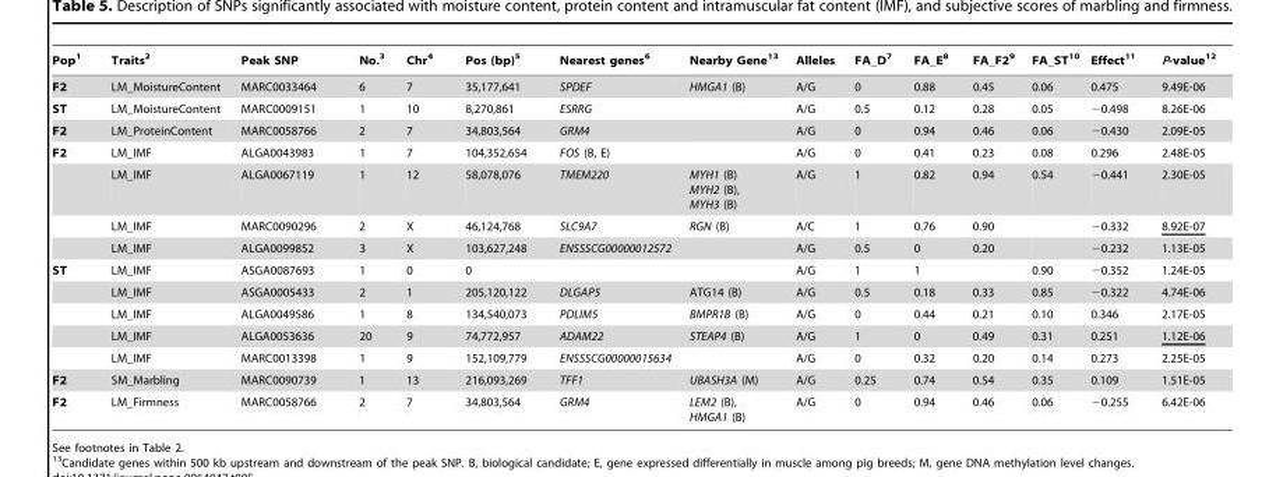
<table><thead><tr><td>Pop<sup>1</sup></td><td>Traits<sup>2</sup></td><td>Peak SNP</td><td>No.<sup>3</sup></td><td>Chr<sup>4</sup></td><td>Pos (bp)<sup>5</sup></td><td>Nearest genes<sup>6</sup></td><td>Nearby Gene<sup>13</sup></td><td>Alleles</td><td>FA_D<sup>7</sup></td><td>FA_E<sup>8</sup></td><td>FA_F2<sup>9</sup></td><td>FA_ST<sup>10</sup></td><td>Effect<sup>11</sup></td><td>P-value<sup>12</sup></td></tr></thead><tbody><tr><td>F2</td><td>LM_MoistureContent</td><td>MARC0033464</td><td>6</td><td>7</td><td>35,177,641</td><td>SPDEF</td><td>HMGA1 (B)</td><td>A/G</td><td>0</td><td>0.88</td><td>0.45</td><td>0.06</td><td>0.475</td><td>9.49E-06</td></tr><tr><td>ST</td><td>LM_MoistureContent</td><td>MARC0009151</td><td>1</td><td>10</td><td>8,270,861</td><td>ESRRG</td><td></td><td>A/G</td><td>0.5</td><td>0.12</td><td>0.28</td><td>0.05</td><td>−0.498</td><td>8.26E-06</td></tr><tr><td>F2</td><td>LM_ProteinContent</td><td>MARC0058766</td><td>2</td><td>7</td><td>34,803,564</td><td>GRM4</td><td></td><td>A/G</td><td>0</td><td>0.94</td><td>0.46</td><td>0.06</td><td>−0.430</td><td>2.09E-05</td></tr><tr><td rowspan="4">F2</td><td>LM_IMF</td><td>ALGA0043983</td><td>1</td><td>7</td><td>104,352,654</td><td>FOS (B, E)</td><td></td><td>A/G</td><td>0</td><td>0.41</td><td>0.23</td><td>0.08</td><td>0.296</td><td>2.48E-05</td></tr><tr><td>LM_IMF</td><td>ALGA0067119</td><td>1</td><td>12</td><td>58,078,076</td><td>TMEM220</td><td>MYH1 (B) MYH2 (B), MYH3 (B)</td><td>A/G</td><td>1</td><td>0.82</td><td>0.94</td><td>0.54</td><td>−0.441</td><td>2.30E-05</td></tr><tr><td>LM_IMF</td><td>MARC0090296</td><td>2</td><td>X</td><td>46,124,768</td><td>SLC9A7</td><td>RGN (B)</td><td>A/C</td><td>1</td><td>0.76</td><td>0.90</td><td></td><td>−0.332</td><td>8.92E-07</td></tr><tr><td>LM_IMF</td><td>ALGA0099852</td><td>3</td><td>X</td><td>103,627,248</td><td>ENSSSCG00000012572</td><td></td><td>A/G</td><td>0.5</td><td>0</td><td>0.20</td><td></td><td>−0.232</td><td>1.13E-05</td></tr><tr><td rowspan="5">ST</td><td>LM_IMF</td><td>ASGA0087693</td><td>1</td><td>0</td><td>0</td><td></td><td></td><td>A/G</td><td>1</td><td>1</td><td></td><td>0.90</td><td>−0.352</td><td>1.24E-05</td></tr><tr><td>LM_IMF</td><td>ASGA0005433</td><td>2</td><td>1</td><td>205,120,122</td><td>DLGAP5</td><td>ATG14 (B)</td><td>A/G</td><td>0.5</td><td>0.18</td><td>0.33</td><td>0.85</td><td>−0.322</td><td>4.74E-06</td></tr><tr><td>LM_IMF</td><td>ALGA0049586</td><td>1</td><td>8</td><td>134,540,073</td><td>PDLIM5</td><td>BMPR1B (B)</td><td>A/G</td><td>0</td><td>0.44</td><td>0.21</td><td>0.10</td><td>0.346</td><td>2.17E-05</td></tr><tr><td>LM_IMF</td><td>ALGA0053636</td><td>20</td><td>9</td><td>74,772,957</td><td>ADAM22</td><td>STEAP4 (B)</td><td>A/G</td><td>1</td><td>0</td><td>0.49</td><td>0.31</td><td>0.251</td><td>1.12E-06</td></tr><tr><td>LM_IMF</td><td>MARC0013398</td><td>1</td><td>9</td><td>152,109,779</td><td>ENSSSCG00000015634</td><td></td><td>A/G</td><td>0</td><td>0.32</td><td>0.20</td><td>0.14</td><td>0.273</td><td>2.25E-05</td></tr><tr><td>F2</td><td>SM_Marbling</td><td>MARC0090739</td><td>1</td><td>13</td><td>216,093,269</td><td>TFF1</td><td>UBASH3A (M)</td><td>A/G</td><td>0.25</td><td>0.74</td><td>0.54</td><td>0.35</td><td>0.109</td><td>1.51E-05</td></tr><tr><td>F2</td><td>LM_Firmness</td><td>MARC0058766</td><td>2</td><td>7</td><td>34,803,564</td><td>GRM4</td><td>LEM2 (B), HMGA1 (B)</td><td>A/G</td><td>0</td><td>0.94</td><td>0.46</td><td>0.06</td><td>−0.255</td><td>6.42E-06</td></tr></tbody></table>